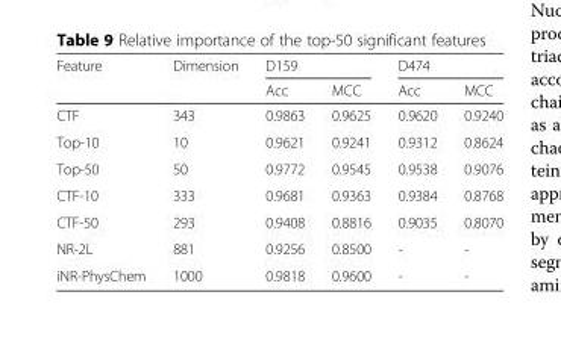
<table><thead><tr><td rowspan="2">Feature</td><td rowspan="2">Dimension</td><td colspan="2">D159</td><td colspan="2">D474</td></tr><tr><td>Acc</td><td>MCC</td><td>Acc</td><td>MCC</td></tr></thead><tbody><tr><td>CTF</td><td>343</td><td>0.9863</td><td>0.9625</td><td>0.9620</td><td>0.9240</td></tr><tr><td>Top-10</td><td>10</td><td>0.9621</td><td>0.9241</td><td>0.9312</td><td>0.8624</td></tr><tr><td>Top-50</td><td>50</td><td>0.9772</td><td>0.9545</td><td>0.9538</td><td>0.9076</td></tr><tr><td>CTF-10</td><td>333</td><td>0.9681</td><td>0.9363</td><td>0.9384</td><td>0.8768</td></tr><tr><td>CTF-50</td><td>293</td><td>0.9408</td><td>0.8816</td><td>0.9035</td><td>0.8070</td></tr><tr><td>NR-2L</td><td>881</td><td>0.9256</td><td>0.8500</td><td>-</td><td>-</td></tr><tr><td>iNR-PhysChem</td><td>1000</td><td>0.9818</td><td>0.9600</td><td>-</td><td>-</td></tr></tbody></table>